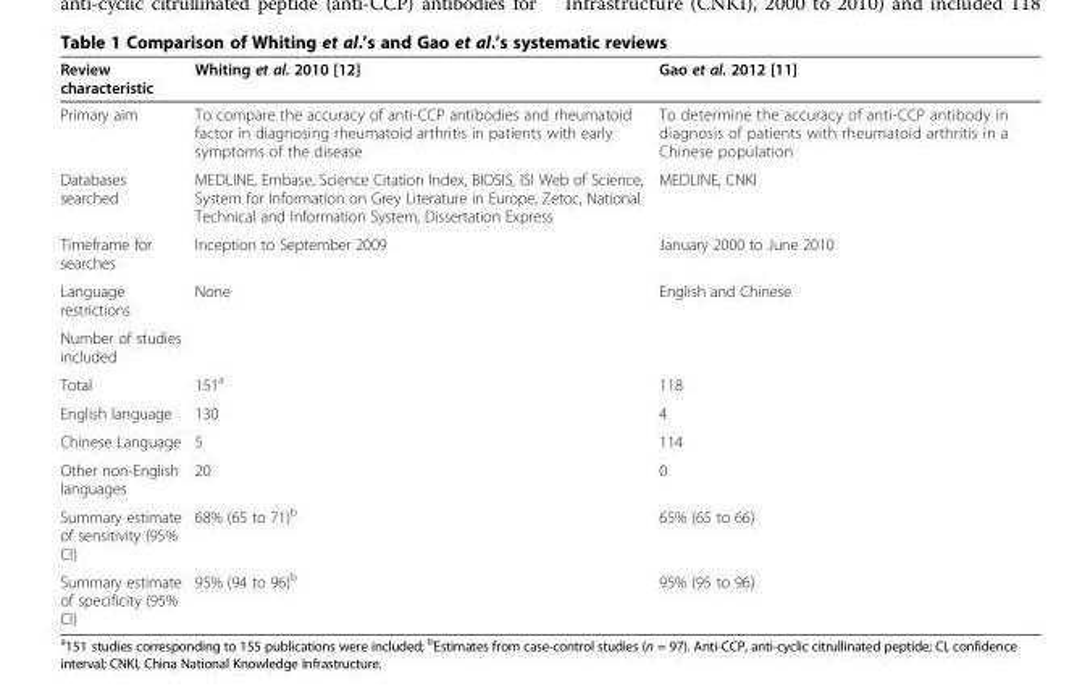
<table><thead><tr><td>Review characteristic</td><td>Whiting et al. 2010 [12]</td><td>Gao et al. 2012 [11]</td></tr></thead><tbody><tr><td>Primary aim</td><td>To compare the accuracy of anti-CCP antibodies and rheumatoid factor in diagnosing rheumatoid arthritis in patients with early symptoms of the disease</td><td>To determine the accuracy of anti-CCP antibody in diagnosis of patients with rheumatoid arthritis in a Chinese population</td></tr><tr><td>Databases searched</td><td>MEDLINE, Embase, Science Citation Index, BIOSIS, ISI Web of Science, System for Information on Grey Literature in Europe, Zetoc, National Technical and Information System, Dissertation Express</td><td>MEDLINE, CNKI</td></tr><tr><td>Timeframe for searches</td><td>Inception to September 2009</td><td>January 2000 to June 2010</td></tr><tr><td>Language restrictions</td><td>None</td><td>English and Chinese</td></tr><tr><td colspan="3">Number of studies included</td></tr><tr><td>Total</td><td>151<sup>a</sup></td><td>118</td></tr><tr><td>English language</td><td>130</td><td>4</td></tr><tr><td>Chinese Language</td><td>5</td><td>114</td></tr><tr><td>Other non-English languages</td><td>20</td><td>0</td></tr><tr><td>Summary estimate of sensitivity (95% CI)</td><td>68% (65 to 71)<sup>b</sup></td><td>65% (65 to 66)</td></tr><tr><td>Summary estimate of specificity (95% CI)</td><td>95% (94 to 96)<sup>b</sup></td><td>95% (95 to 96)</td></tr></tbody></table>